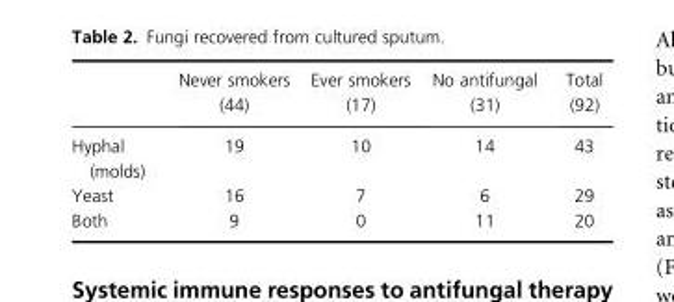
<table><thead><tr><td></td><td>Never smokers (44)</td><td>Ever smokers (17)</td><td>No antifungal (31)</td><td>Total (92)</td></tr></thead><tbody><tr><td>Hyphal (molds)</td><td>19</td><td>10</td><td>14</td><td>43</td></tr><tr><td>Yeast</td><td>16</td><td>7</td><td>6</td><td>29</td></tr><tr><td>Both</td><td>9</td><td>0</td><td>11</td><td>20</td></tr></tbody></table>